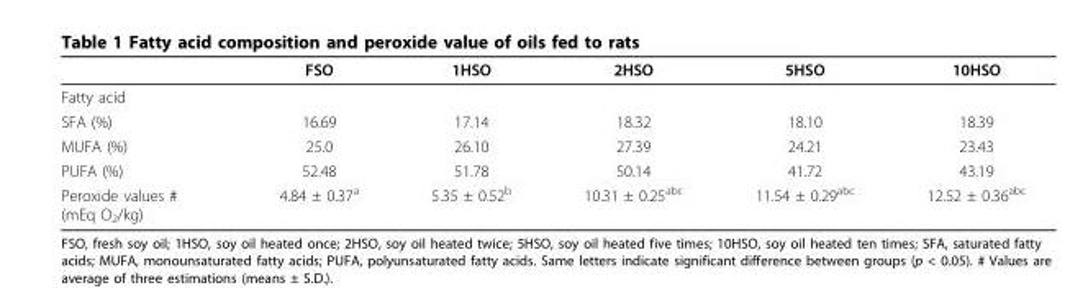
<table><thead><tr><td></td><td>FSO</td><td>1HSO</td><td>2HSO</td><td>5HSO</td><td>10HSO</td></tr></thead><tbody><tr><td colspan="6">Fatty acid</td></tr><tr><td>SFA (%)</td><td>16.69</td><td>17.14</td><td>18.32</td><td>18.10</td><td>18.39</td></tr><tr><td>MUFA (%)</td><td>25.0</td><td>26.10</td><td>27.39</td><td>24.21</td><td>23.43</td></tr><tr><td>PUFA (%)</td><td>52.48</td><td>51.78</td><td>50.14</td><td>41.72</td><td>43.19</td></tr><tr><td>Peroxide values # (mEq O<sub>2</sub>/kg)</td><td>4.84 ± 0.37<sup>a</sup></td><td>5.35 ± 0.52<sup>b</sup></td><td>10.31 ± 0.25<sup>abc</sup></td><td>11.54 ± 0.29<sup>abc</sup></td><td>12.52 ± 0.36<sup>abc</sup></td></tr></tbody></table>